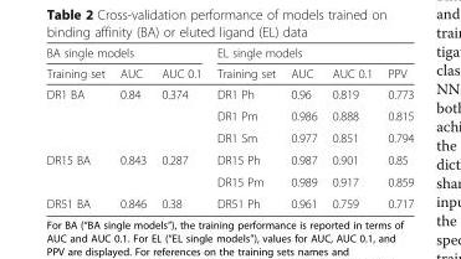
<table><thead><tr><td colspan="3">BA single models</td><td colspan="4">EL single models</td></tr><tr><td>Training set</td><td>AUC</td><td>AUC 0.1</td><td>Training set</td><td>AUC</td><td>AUC 0.1</td><td>PPV</td></tr></thead><tbody><tr><td rowspan="3">DR1 BA</td><td rowspan="3">0.84</td><td rowspan="3">0.374</td><td>DR1 Ph</td><td>0.96</td><td>0.819</td><td>0.773</td></tr><tr><td>DR1 Pm</td><td>0.986</td><td>0.888</td><td>0.815</td></tr><tr><td>DR1 Sm</td><td>0.977</td><td>0.851</td><td>0.794</td></tr><tr><td rowspan="2">DR15 BA</td><td rowspan="2">0.843</td><td rowspan="2">0.287</td><td>DR15 Ph</td><td>0.987</td><td>0.901</td><td>0.85</td></tr><tr><td>DR15 Pm</td><td>0.989</td><td>0.917</td><td>0.859</td></tr><tr><td>DR51 BA</td><td>0.846</td><td>0.38</td><td>DR51 Ph</td><td>0.961</td><td>0.759</td><td>0.717</td></tr></tbody></table>